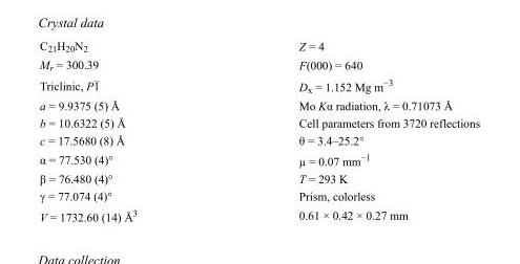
<table><tbody><tr><td>C<sub>21</sub>H<sub>20</sub>N<sub>2</sub></td><td>Z = 4</td></tr><tr><td>M<sub>r</sub> = 300.39</td><td>F(000) = 640</td></tr><tr><td>Triclinic, P1</td><td>D<sub>x</sub> = 1.152 Mg m<sup>−3</sup></td></tr><tr><td>a = 9.9375 (5) Å</td><td>Mo Kα radiation, λ = 0.71073 Å</td></tr><tr><td>b = 10.6322 (5) Å</td><td>Cell parameters from 3720 reflections</td></tr><tr><td>c = 17.5680 (8) Å</td><td>θ = 3.4–25.2°</td></tr><tr><td>α = 77.530 (4)°</td><td>µ = 0.07 mm<sup>−1</sup></td></tr><tr><td>β = 76.480 (4)°</td><td>T = 293 K</td></tr><tr><td>γ = 77.074 (4)°</td><td>Prism, colorless</td></tr><tr><td>V = 1732.60 (14) Å<sup>3</sup></td><td>0.61 × 0.42 × 0.27 mm</td></tr></tbody></table>